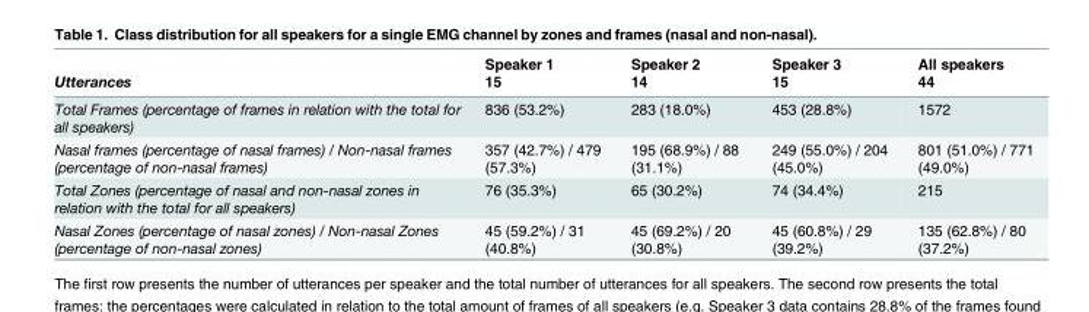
<table><thead><tr><td rowspan="2">Utterances</td><td rowspan="2">Speaker 1 15</td><td rowspan="2">Speaker 2 14</td><td rowspan="2">Speaker 3 15</td><td rowspan="2">All speakers 44</td></tr><tr></tr></thead><tbody><tr><td>Total Frames (percentage of frames in relation with the total for all speakers)</td><td>836 (53.2%)</td><td>283 (18.0%)</td><td>453 (28.8%)</td><td>1572</td></tr><tr><td>Nasal frames (percentage of nasal frames) / Non-nasal frames (percentage of non-nasal frames)</td><td>357 (42.7%) / 479 (57.3%)</td><td>195 (68.9%) / 88 (31.1%)</td><td>249 (55.0%) / 204 (45.0%)</td><td>801 (51.0%) / 771 (49.0%)</td></tr><tr><td>Total Zones (percentage of nasal and non-nasal zones in relation with the total for all speakers)</td><td>76 (35.3%)</td><td>65 (30.2%)</td><td>74 (34.4%)</td><td>215</td></tr><tr><td>Nasal Zones (percentage of nasal zones) / Non-nasal Zones (percentage of non-nasal zones)</td><td>45 (59.2%) / 31 (40.8%)</td><td>45 (69.2%) / 20 (30.8%)</td><td>45 (60.8%) / 29 (39.2%)</td><td>135 (62.8%) / 80 (37.2%)</td></tr></tbody></table>